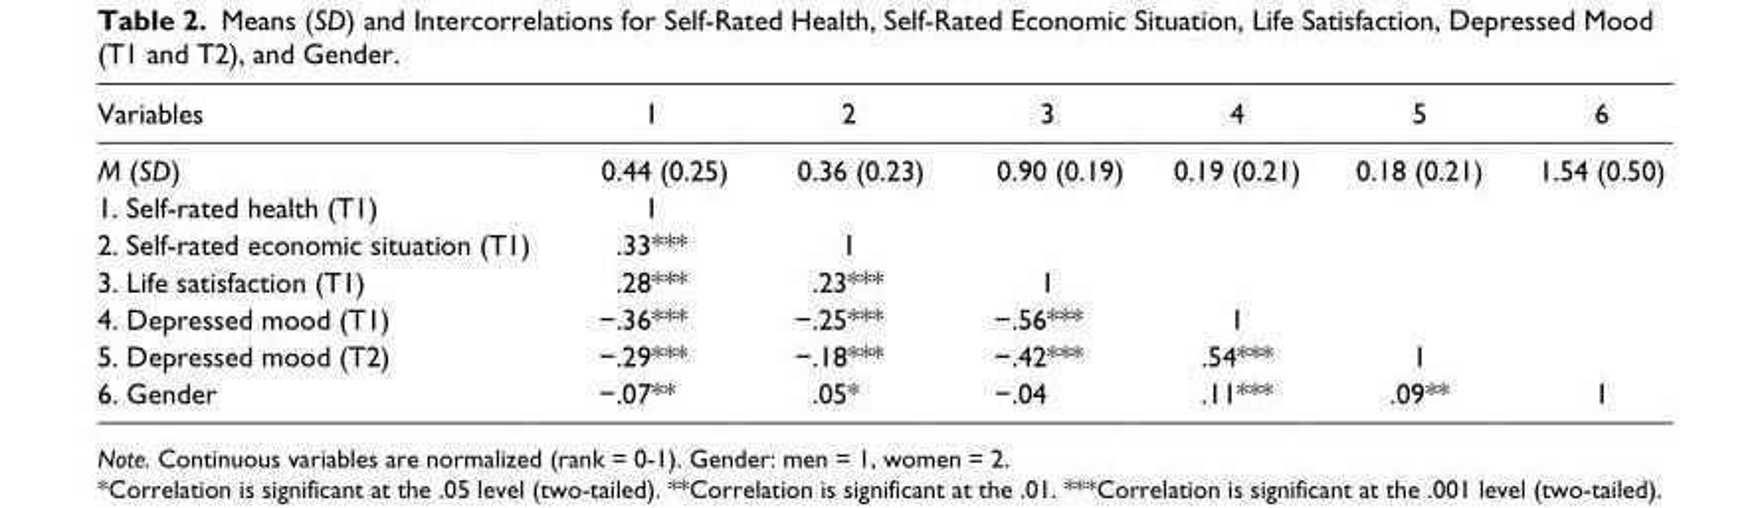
<table><thead><tr><td>Variables</td><td>1</td><td>2</td><td>3</td><td>4</td><td>5</td><td>6</td></tr></thead><tbody><tr><td>M (SD)</td><td>0.44 (0.25)</td><td>0.36 (0.23)</td><td>0.90 (0.19)</td><td>0.19 (0.21)</td><td>0.18 (0.21)</td><td>1.54 (0.50)</td></tr><tr><td>1. Self-rated health (T1)</td><td>1</td><td></td><td></td><td></td><td></td><td></td></tr><tr><td>2. Self-rated economic situation (T1)</td><td>.33***</td><td>1</td><td></td><td></td><td></td><td></td></tr><tr><td>3. Life satisfaction (T1)</td><td>.28***</td><td>.23***</td><td>1</td><td></td><td></td><td></td></tr><tr><td>4. Depressed mood (T1)</td><td>−.36***</td><td>−.25***</td><td>−.56***</td><td>1</td><td></td><td></td></tr><tr><td>5. Depressed mood (T2)</td><td>−.29***</td><td>−.18***</td><td>−.42***</td><td>.54***</td><td>1</td><td></td></tr><tr><td>6. Gender</td><td>−.07**</td><td>.05*</td><td>−.04</td><td>.11***</td><td>.09**</td><td>1</td></tr></tbody></table>